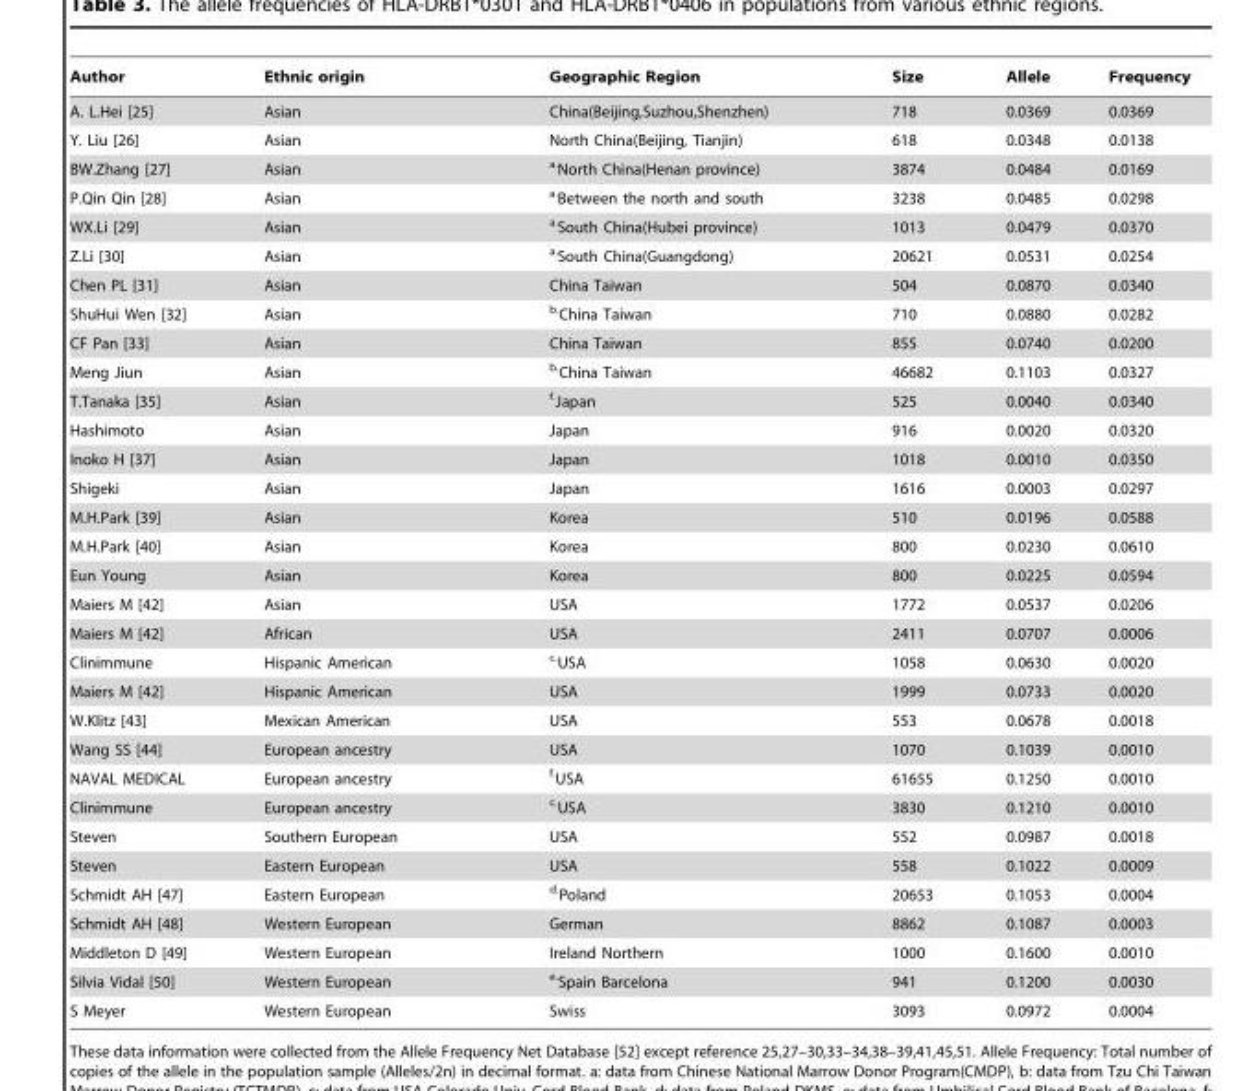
<table><thead><tr><td>Author</td><td>Ethnic origin</td><td>Geographic Region</td><td>Size</td><td>Allele</td><td>Frequency</td></tr></thead><tbody><tr><td>A. L.Hei [25]</td><td>Asian</td><td>China(Beijing,Suzhou,Shenzhen)</td><td>718</td><td>0.0369</td><td>0.0369</td></tr><tr><td>Y. Liu [26]</td><td>Asian</td><td>North China(Beijing, Tianjin)</td><td>618</td><td>0.0348</td><td>0.0138</td></tr><tr><td>BW.Zhang [27]</td><td>Asian</td><td><sup>a.</sup>North China(Henan province)</td><td>3874</td><td>0.0484</td><td>0.0169</td></tr><tr><td>P.Qin Qin [28]</td><td>Asian</td><td><sup>a.</sup>Between the north and south</td><td>3238</td><td>0.0485</td><td>0.0298</td></tr><tr><td>WX.Li [29]</td><td>Asian</td><td><sup>a.</sup>South China(Hubei province)</td><td>1013</td><td>0.0479</td><td>0.0370</td></tr><tr><td>Z.Li [30]</td><td>Asian</td><td><sup>a.</sup>South China(Guangdong)</td><td>20621</td><td>0.0531</td><td>0.0254</td></tr><tr><td>Chen PL [31]</td><td>Asian</td><td>China Taiwan</td><td>504</td><td>0.0870</td><td>0.0340</td></tr><tr><td>ShuHui Wen [32]</td><td>Asian</td><td><sup>b.</sup>China Taiwan</td><td>710</td><td>0.0880</td><td>0.0282</td></tr><tr><td>CF Pan [33]</td><td>Asian</td><td>China Taiwan</td><td>855</td><td>0.0740</td><td>0.0200</td></tr><tr><td>Meng Jiun</td><td>Asian</td><td><sup>b.</sup>China Taiwan</td><td>46682</td><td>0.1103</td><td>0.0327</td></tr><tr><td>T.Tanaka [35]</td><td>Asian</td><td><sup>f.</sup>Japan</td><td>525</td><td>0.0040</td><td>0.0340</td></tr><tr><td>Hashimoto</td><td>Asian</td><td>Japan</td><td>916</td><td>0.0020</td><td>0.0320</td></tr><tr><td>Inoko H [37]</td><td>Asian</td><td>Japan</td><td>1018</td><td>0.0010</td><td>0.0350</td></tr><tr><td>Shigeki</td><td>Asian</td><td>Japan</td><td>1616</td><td>0.0003</td><td>0.0297</td></tr><tr><td>M.H.Park [39]</td><td>Asian</td><td>Korea</td><td>510</td><td>0.0196</td><td>0.0588</td></tr><tr><td>M.H.Park [40]</td><td>Asian</td><td>Korea</td><td>800</td><td>0.0230</td><td>0.0610</td></tr><tr><td>Eun Young</td><td>Asian</td><td>Korea</td><td>800</td><td>0.0225</td><td>0.0594</td></tr><tr><td>Maiers M [42]</td><td>Asian</td><td>USA</td><td>1772</td><td>0.0537</td><td>0.0206</td></tr><tr><td>Maiers M [42]</td><td>African</td><td>USA</td><td>2411</td><td>0.0707</td><td>0.0006</td></tr><tr><td>Clinimmune</td><td>Hispanic American</td><td><sup>c.</sup>USA</td><td>1058</td><td>0.0630</td><td>0.0020</td></tr><tr><td>Maiers M [42]</td><td>Hispanic American</td><td>USA</td><td>1999</td><td>0.0733</td><td>0.0020</td></tr><tr><td>W.Klitz [43]</td><td>Mexican American</td><td>USA</td><td>553</td><td>0.0678</td><td>0.0018</td></tr><tr><td>Wang SS [44]</td><td>European ancestry</td><td>USA</td><td>1070</td><td>0.1039</td><td>0.0010</td></tr><tr><td>NAVAL MEDICAL</td><td>European ancestry</td><td><sup>f.</sup>USA</td><td>61655</td><td>0.1250</td><td>0.0010</td></tr><tr><td>Clinimmune</td><td>European ancestry</td><td><sup>c.</sup>USA</td><td>3830</td><td>0.1210</td><td>0.0010</td></tr><tr><td>Steven</td><td>Southern European</td><td>USA</td><td>552</td><td>0.0987</td><td>0.0018</td></tr><tr><td>Steven</td><td>Eastern European</td><td>USA</td><td>558</td><td>0.1022</td><td>0.0009</td></tr><tr><td>Schmidt AH [47]</td><td>Eastern European</td><td><sup>d.</sup>Poland</td><td>20653</td><td>0.1053</td><td>0.0004</td></tr><tr><td>Schmidt AH [48]</td><td>Western European</td><td>German</td><td>8862</td><td>0.1087</td><td>0.0003</td></tr><tr><td>Middleton D [49]</td><td>Western European</td><td>Ireland Northern</td><td>1000</td><td>0.1600</td><td>0.0010</td></tr><tr><td>Silvia Vidal [50]</td><td>Western European</td><td><sup>e.</sup>Spain Barcelona</td><td>941</td><td>0.1200</td><td>0.0030</td></tr><tr><td>S Meyer</td><td>Western European</td><td>Swiss</td><td>3093</td><td>0.0972</td><td>0.0004</td></tr></tbody></table>